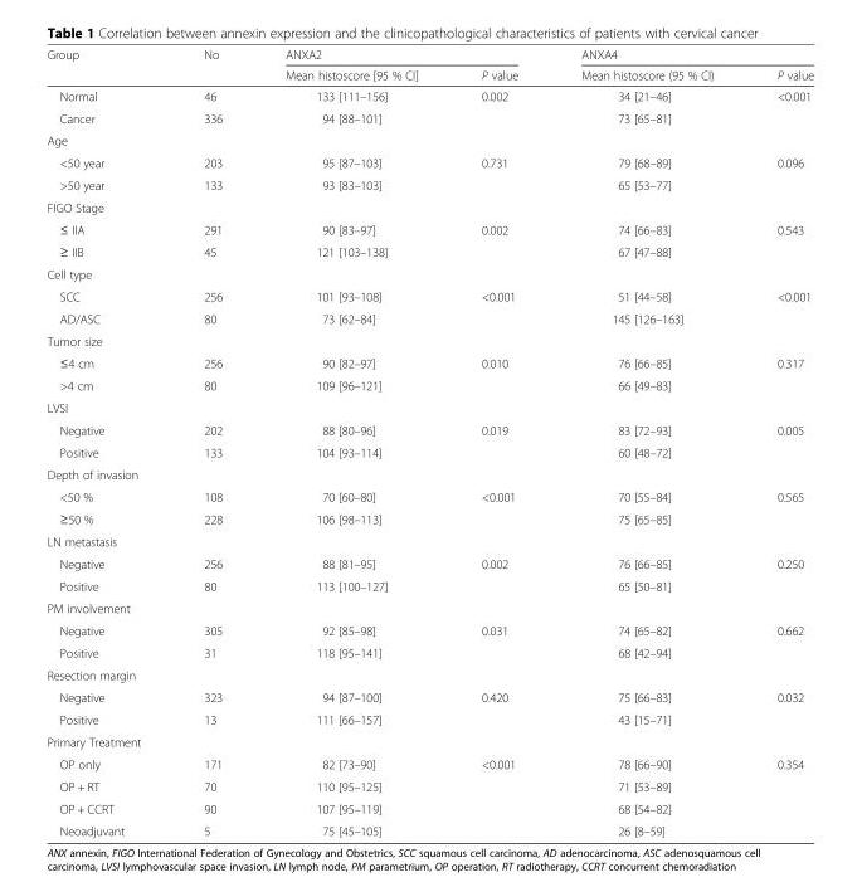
<table><thead><tr><td rowspan="2">Group</td><td rowspan="2">No</td><td colspan="2">ANXA2</td><td colspan="2">ANXA4</td></tr><tr><td>Mean histoscore [95 % CI]</td><td>P value</td><td>Mean histoscore (95 % CI)</td><td>P value</td></tr></thead><tbody><tr><td>Normal</td><td>46</td><td>133 [111–156]</td><td>0.002</td><td>34 [21–46]</td><td>&lt;0.001</td></tr><tr><td>Cancer</td><td>336</td><td>94 [88–101]</td><td></td><td>73 [65–81]</td><td></td></tr><tr><td colspan="6">Age</td></tr><tr><td>&lt;50 year</td><td>203</td><td>95 [87–103]</td><td>0.731</td><td>79 [68–89]</td><td>0.096</td></tr><tr><td>&gt;50 year</td><td>133</td><td>93 [83–103]</td><td></td><td>65 [53–77]</td><td></td></tr><tr><td colspan="6">FIGO Stage</td></tr><tr><td>≤ IIA</td><td>291</td><td>90 [83–97]</td><td>0.002</td><td>74 [66–83]</td><td>0.543</td></tr><tr><td>≥ IIB</td><td>45</td><td>121 [103–138]</td><td></td><td>67 [47–88]</td><td></td></tr><tr><td colspan="6">Cell type</td></tr><tr><td>SCC</td><td>256</td><td>101 [93–108]</td><td>&lt;0.001</td><td>51 [44–58]</td><td>&lt;0.001</td></tr><tr><td>AD/ASC</td><td>80</td><td>73 [62–84]</td><td></td><td>145 [126–163]</td><td></td></tr><tr><td colspan="6">Tumor size</td></tr><tr><td>≤4 cm</td><td>256</td><td>90 [82–97]</td><td>0.010</td><td>76 [66–85]</td><td>0.317</td></tr><tr><td>&gt;4 cm</td><td>80</td><td>109 [96–121]</td><td></td><td>66 [49–83]</td><td></td></tr><tr><td colspan="6">LVSI</td></tr><tr><td>Negative</td><td>202</td><td>88 [80–96]</td><td>0.019</td><td>83 [72–93]</td><td>0.005</td></tr><tr><td>Positive</td><td>133</td><td>104 [93–114]</td><td></td><td>60 [48–72]</td><td></td></tr><tr><td colspan="6">Depth of invasion</td></tr><tr><td>&lt;50 %</td><td>108</td><td>70 [60–80]</td><td>&lt;0.001</td><td>70 [55–84]</td><td>0.565</td></tr><tr><td>≥50 %</td><td>228</td><td>106 [98–113]</td><td></td><td>75 [65–85]</td><td></td></tr><tr><td colspan="6">LN metastasis</td></tr><tr><td>Negative</td><td>256</td><td>88 [81–95]</td><td>0.002</td><td>76 [66–85]</td><td>0.250</td></tr><tr><td>Positive</td><td>80</td><td>113 [100–127]</td><td></td><td>65 [50–81]</td><td></td></tr><tr><td colspan="6">PM involvement</td></tr><tr><td>Negative</td><td>305</td><td>92 [85–98]</td><td>0.031</td><td>74 [65–82]</td><td>0.662</td></tr><tr><td>Positive</td><td>31</td><td>118 [95–141]</td><td></td><td>68 [42–94]</td><td></td></tr><tr><td colspan="6">Resection margin</td></tr><tr><td>Negative</td><td>323</td><td>94 [87–100]</td><td>0.420</td><td>75 [66–83]</td><td>0.032</td></tr><tr><td>Positive</td><td>13</td><td>111 [66–157]</td><td></td><td>43 [15–71]</td><td></td></tr><tr><td colspan="6">Primary Treatment</td></tr><tr><td>OP only</td><td>171</td><td>82 [73–90]</td><td>&lt;0.001</td><td>78 [66–90]</td><td>0.354</td></tr><tr><td>OP + RT</td><td>70</td><td>110 [95–125]</td><td></td><td>71 [53–89]</td><td></td></tr><tr><td>OP + CCRT</td><td>90</td><td>107 [95–119]</td><td></td><td>68 [54–82]</td><td></td></tr><tr><td>Neoadjuvant</td><td>5</td><td>75 [45–105]</td><td></td><td>26 [8–59]</td><td></td></tr></tbody></table>